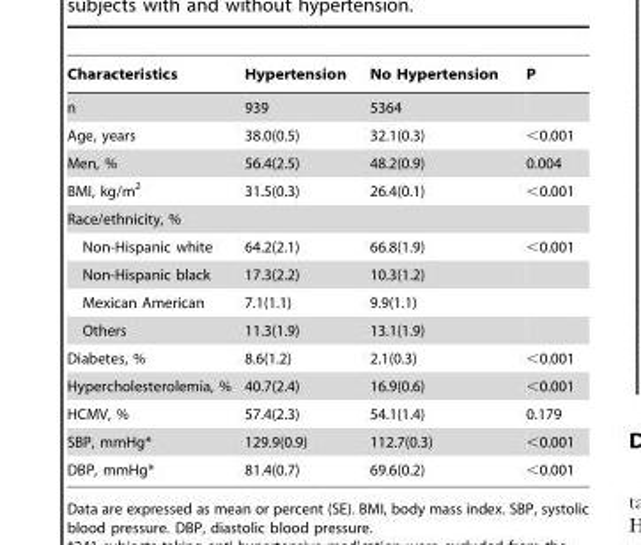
<table><thead><tr><td>Characteristics</td><td>Hypertension</td><td>No Hypertension</td><td>P</td></tr></thead><tbody><tr><td>n</td><td>939</td><td>5364</td><td></td></tr><tr><td>Age, years</td><td>38.0(0.5)</td><td>32.1(0.3)</td><td>&lt;0.001</td></tr><tr><td>Men, %</td><td>56.4(2.5)</td><td>48.2(0.9)</td><td>0.004</td></tr><tr><td>BMI, kg/m<sup>2</sup></td><td>31.5(0.3)</td><td>26.4(0.1)</td><td>&lt;0.001</td></tr><tr><td colspan="4">Race/ethnicity, %</td></tr><tr><td>Non-Hispanic white</td><td>64.2(2.1)</td><td>66.8(1.9)</td><td>&lt;0.001</td></tr><tr><td>Non-Hispanic black</td><td>17.3(2.2)</td><td>10.3(1.2)</td><td></td></tr><tr><td>Mexican American</td><td>7.1(1.1)</td><td>9.9(1.1)</td><td></td></tr><tr><td>Others</td><td>11.3(1.9)</td><td>13.1(1.9)</td><td></td></tr><tr><td>Diabetes, %</td><td>8.6(1.2)</td><td>2.1(0.3)</td><td>&lt;0.001</td></tr><tr><td>Hypercholesterolemia, %</td><td>40.7(2.4)</td><td>16.9(0.6)</td><td>&lt;0.001</td></tr><tr><td>HCMV, %</td><td>57.4(2.3)</td><td>54.1(1.4)</td><td>0.179</td></tr><tr><td>SBP, mmHg*</td><td>129.9(0.9)</td><td>112.7(0.3)</td><td>&lt;0.001</td></tr><tr><td>DBP, mmHg*</td><td>81.4(0.7)</td><td>69.6(0.2)</td><td>&lt;0.001</td></tr></tbody></table>